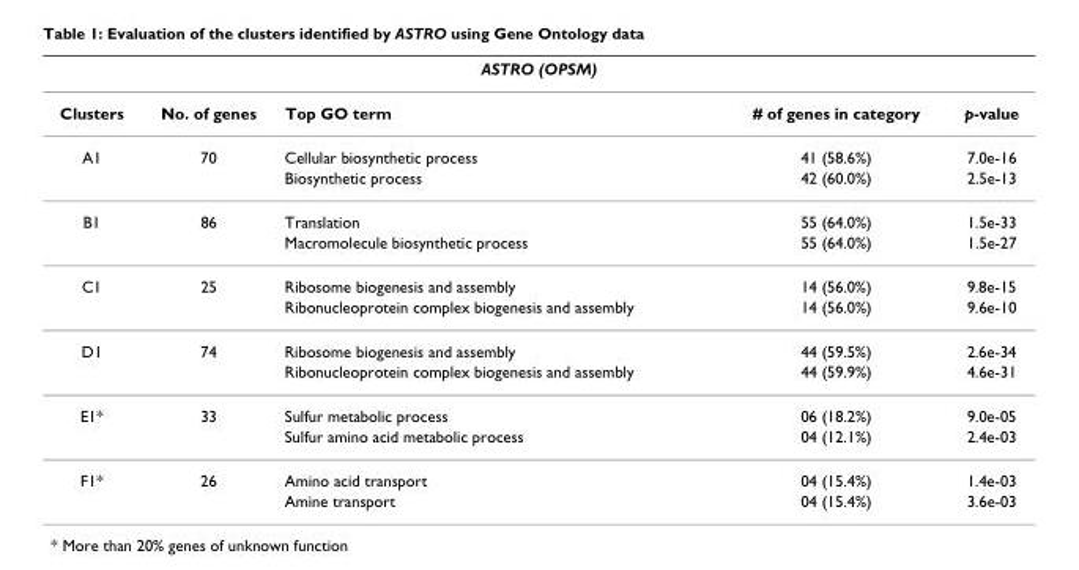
<table><thead><tr><td colspan="5">ASTRO (OPSM)</td></tr><tr><td>Clusters</td><td>No. of genes</td><td>Top GO term</td><td># of genes in category</td><td>p-value</td></tr></thead><tbody><tr><td rowspan="2">A1</td><td>70</td><td>Cellular biosynthetic process</td><td>41 (58.6%)</td><td>7.0e-16</td></tr><tr><td></td><td>Biosynthetic process</td><td>42 (60.0%)</td><td>2.5e-13</td></tr><tr><td rowspan="2">B1</td><td>86</td><td>Translation</td><td>55 (64.0%)</td><td>1.5e-33</td></tr><tr><td></td><td>Macromolecule biosynthetic process</td><td>55 (64.0%)</td><td>1.5e-27</td></tr><tr><td rowspan="2">C1</td><td>25</td><td>Ribosome biogenesis and assembly</td><td>14 (56.0%)</td><td>9.8e-15</td></tr><tr><td></td><td>Ribonucleoprotein complex biogenesis and assembly</td><td>14 (56.0%)</td><td>9.6e-10</td></tr><tr><td rowspan="2">D1</td><td>74</td><td>Ribosome biogenesis and assembly</td><td>44 (59.5%)</td><td>2.6e-34</td></tr><tr><td></td><td>Ribonucleoprotein complex biogenesis and assembly</td><td>44 (59.9%)</td><td>4.6e-31</td></tr><tr><td rowspan="2">E1*</td><td>33</td><td>Sulfur metabolic process</td><td>06 (18.2%)</td><td>9.0e-05</td></tr><tr><td></td><td>Sulfur amino acid metabolic process</td><td>04 (12.1%)</td><td>2.4e-03</td></tr><tr><td rowspan="2">F1*</td><td>26</td><td>Amino acid transport</td><td>04 (15.4%)</td><td>1.4e-03</td></tr><tr><td></td><td>Amine transport</td><td>04 (15.4%)</td><td>3.6e-03</td></tr></tbody></table>